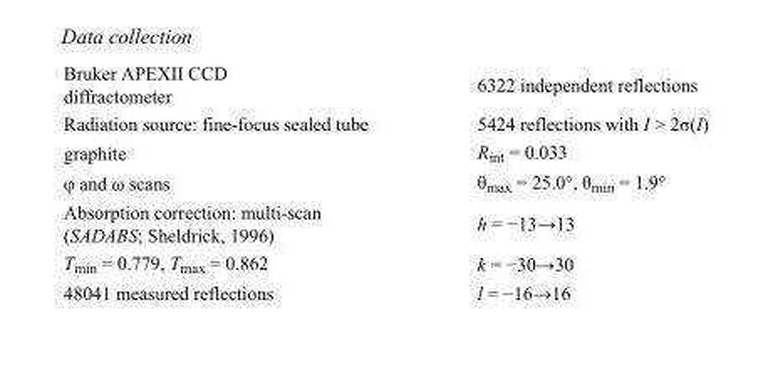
<table><tbody><tr><td>Bruker APEXII CCD diffractometer</td><td>6322 independent reflections</td></tr><tr><td>Radiation source: fine-focus sealed tube</td><td>5424 reflections with I &gt; 2σ(I)</td></tr><tr><td>graphite</td><td>R<sub>int</sub> = 0.033</td></tr><tr><td>φ and ω scans</td><td>θ<sub>max</sub> = 25.0°, θ<sub>min</sub> = 1.9°</td></tr><tr><td>Absorption correction: multi-scan (SADABS; Sheldrick, 1996)</td><td>h = −13→13</td></tr><tr><td>T<sub>min</sub> = 0.779, T<sub>max</sub> = 0.862</td><td>k = −30→30</td></tr><tr><td>48041 measured reflections</td><td>l = −16→16</td></tr></tbody></table>